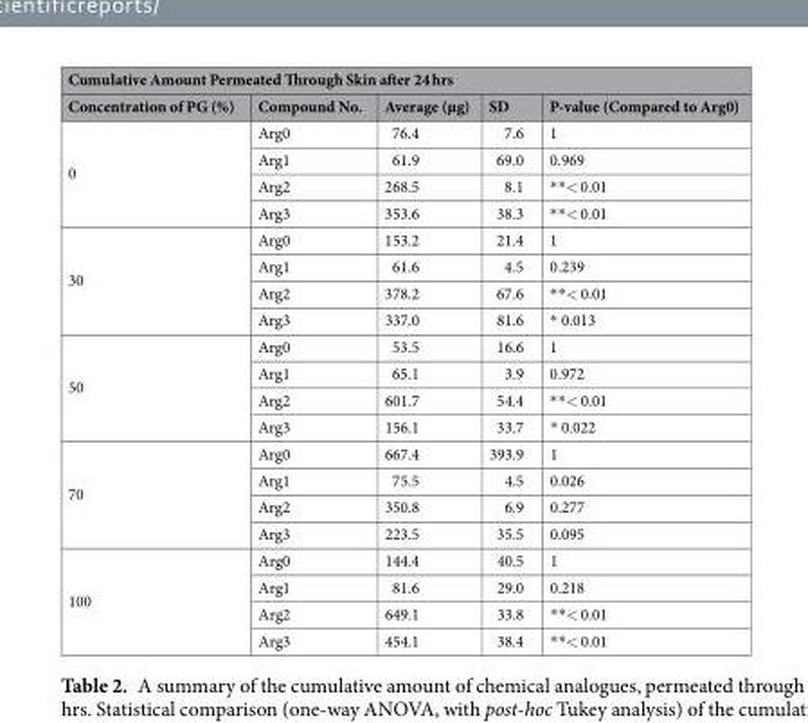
<table><thead><tr><td colspan="5">Cumulative Amount Permeated Through Skin after 24 hrs</td></tr><tr><td>Concentration of PG (%)</td><td>Compound No.</td><td>Average (µg)</td><td>SD</td><td>P-value (Compared to Arg0)</td></tr></thead><tbody><tr><td rowspan="4">0</td><td>Arg0</td><td>76.4</td><td>7.6</td><td>1</td></tr><tr><td>Arg1</td><td>61.9</td><td>69.0</td><td>0.969</td></tr><tr><td>Arg2</td><td>268.5</td><td>8.1</td><td>**&lt; 0.01</td></tr><tr><td>Arg3</td><td>353.6</td><td>38.3</td><td>**&lt; 0.01</td></tr><tr><td rowspan="4">30</td><td>Arg0</td><td>153.2</td><td>21.4</td><td>1</td></tr><tr><td>Arg1</td><td>61.6</td><td>4.5</td><td>0.239</td></tr><tr><td>Arg2</td><td>378.2</td><td>67.6</td><td>**&lt; 0.01</td></tr><tr><td>Arg3</td><td>337.0</td><td>81.6</td><td>* 0.013</td></tr><tr><td rowspan="4">50</td><td>Arg0</td><td>53.5</td><td>16.6</td><td>1</td></tr><tr><td>Arg1</td><td>65.1</td><td>3.9</td><td>0.972</td></tr><tr><td>Arg2</td><td>601.7</td><td>54.4</td><td>**&lt; 0.01</td></tr><tr><td>Arg3</td><td>156.1</td><td>33.7</td><td>* 0.022</td></tr><tr><td rowspan="4">70</td><td>Arg0</td><td>667.4</td><td>393.9</td><td>1</td></tr><tr><td>Arg1</td><td>75.5</td><td>4.5</td><td>0.026</td></tr><tr><td>Arg2</td><td>350.8</td><td>6.9</td><td>0.277</td></tr><tr><td>Arg3</td><td>223.5</td><td>35.5</td><td>0.095</td></tr><tr><td rowspan="4">100</td><td>Arg0</td><td>144.4</td><td>40.5</td><td>1</td></tr><tr><td>Arg1</td><td>81.6</td><td>29.0</td><td>0.218</td></tr><tr><td>Arg2</td><td>649.1</td><td>33.8</td><td>**&lt; 0.01</td></tr><tr><td>Arg3</td><td>454.1</td><td>38.4</td><td>**&lt; 0.01</td></tr></tbody></table>